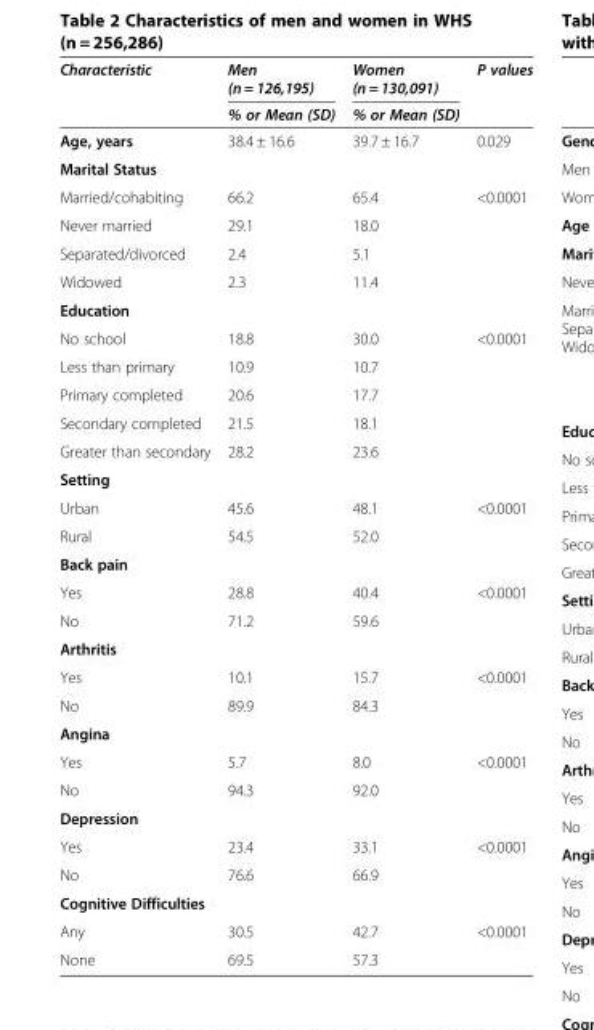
<table><thead><tr><td rowspan="2">Characteristic</td><td rowspan="2">Men (n = 126,195) % or Mean (SD)</td><td rowspan="2">Women (n = 130,091) % or Mean (SD)</td><td rowspan="2">P values</td></tr><tr></tr></thead><tbody><tr><td>Age, years</td><td>38.4 ± 16.6</td><td>39.7 ± 16.7</td><td>0.029</td></tr><tr><td colspan="4">Marital Status</td></tr><tr><td>Married/cohabiting</td><td>66.2</td><td>65.4</td><td>&lt;0.0001</td></tr><tr><td>Never married</td><td>29.1</td><td>18.0</td><td></td></tr><tr><td>Separated/divorced</td><td>2.4</td><td>5.1</td><td></td></tr><tr><td>Widowed</td><td>2.3</td><td>11.4</td><td></td></tr><tr><td colspan="4">Education</td></tr><tr><td>No school</td><td>18.8</td><td>30.0</td><td>&lt;0.0001</td></tr><tr><td>Less than primary</td><td>10.9</td><td>10.7</td><td></td></tr><tr><td>Primary completed</td><td>20.6</td><td>17.7</td><td></td></tr><tr><td>Secondary completed</td><td>21.5</td><td>18.1</td><td></td></tr><tr><td>Greater than secondary</td><td>28.2</td><td>23.6</td><td></td></tr><tr><td colspan="4">Setting</td></tr><tr><td>Urban</td><td>45.6</td><td>48.1</td><td>&lt;0.0001</td></tr><tr><td>Rural</td><td>54.5</td><td>52.0</td><td></td></tr><tr><td colspan="4">Back pain</td></tr><tr><td>Yes</td><td>28.8</td><td>40.4</td><td>&lt;0.0001</td></tr><tr><td>No</td><td>71.2</td><td>59.6</td><td></td></tr><tr><td colspan="4">Arthritis</td></tr><tr><td>Yes</td><td>10.1</td><td>15.7</td><td>&lt;0.0001</td></tr><tr><td>No</td><td>89.9</td><td>84.3</td><td></td></tr><tr><td colspan="4">Angina</td></tr><tr><td>Yes</td><td>5.7</td><td>8.0</td><td>&lt;0.0001</td></tr><tr><td>No</td><td>94.3</td><td>92.0</td><td></td></tr><tr><td colspan="4">Depression</td></tr><tr><td>Yes</td><td>23.4</td><td>33.1</td><td>&lt;0.0001</td></tr><tr><td>No</td><td>76.6</td><td>66.9</td><td></td></tr><tr><td colspan="4">Cognitive Difficulties</td></tr><tr><td>Any</td><td>30.5</td><td>42.7</td><td>&lt;0.0001</td></tr><tr><td>None</td><td>69.5</td><td>57.3</td><td></td></tr></tbody></table>